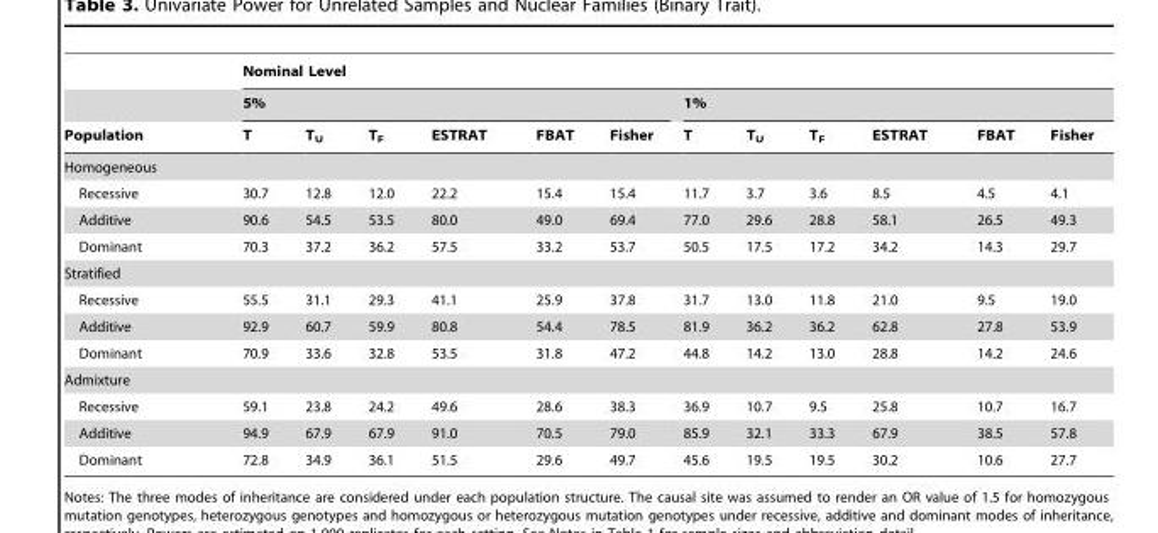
<table><thead><tr><td rowspan="3">Population</td><td colspan="12">Nominal Level</td></tr><tr><td colspan="6">5%</td><td colspan="6">1%</td></tr><tr><td>T</td><td>T<sub>U</sub></td><td>T<sub>F</sub></td><td>ESTRAT</td><td>FBAT</td><td>Fisher</td><td>T</td><td>T<sub>U</sub></td><td>T<sub>F</sub></td><td>ESTRAT</td><td>FBAT</td><td>Fisher</td></tr></thead><tbody><tr><td colspan="13">Homogeneous</td></tr><tr><td>Recessive</td><td>30.7</td><td>12.8</td><td>12.0</td><td>22.2</td><td>15.4</td><td>15.4</td><td>11.7</td><td>3.7</td><td>3.6</td><td>8.5</td><td>4.5</td><td>4.1</td></tr><tr><td>Additive</td><td>90.6</td><td>54.5</td><td>53.5</td><td>80.0</td><td>49.0</td><td>69.4</td><td>77.0</td><td>29.6</td><td>28.8</td><td>58.1</td><td>26.5</td><td>49.3</td></tr><tr><td>Dominant</td><td>70.3</td><td>37.2</td><td>36.2</td><td>57.5</td><td>33.2</td><td>53.7</td><td>50.5</td><td>17.5</td><td>17.2</td><td>34.2</td><td>14.3</td><td>29.7</td></tr><tr><td colspan="13">Stratified</td></tr><tr><td>Recessive</td><td>55.5</td><td>31.1</td><td>29.3</td><td>41.1</td><td>25.9</td><td>37.8</td><td>31.7</td><td>13.0</td><td>11.8</td><td>21.0</td><td>9.5</td><td>19.0</td></tr><tr><td>Additive</td><td>92.9</td><td>60.7</td><td>59.9</td><td>80.8</td><td>54.4</td><td>78.5</td><td>81.9</td><td>36.2</td><td>36.2</td><td>62.8</td><td>27.8</td><td>53.9</td></tr><tr><td>Dominant</td><td>70.9</td><td>33.6</td><td>32.8</td><td>53.5</td><td>31.8</td><td>47.2</td><td>44.8</td><td>14.2</td><td>13.0</td><td>28.8</td><td>14.2</td><td>24.6</td></tr><tr><td colspan="13">Admixture</td></tr><tr><td>Recessive</td><td>59.1</td><td>23.8</td><td>24.2</td><td>49.6</td><td>28.6</td><td>38.3</td><td>36.9</td><td>10.7</td><td>9.5</td><td>25.8</td><td>10.7</td><td>16.7</td></tr><tr><td>Additive</td><td>94.9</td><td>67.9</td><td>67.9</td><td>91.0</td><td>70.5</td><td>79.0</td><td>85.9</td><td>32.1</td><td>33.3</td><td>67.9</td><td>38.5</td><td>57.8</td></tr><tr><td>Dominant</td><td>72.8</td><td>34.9</td><td>36.1</td><td>51.5</td><td>29.6</td><td>49.7</td><td>45.6</td><td>19.5</td><td>19.5</td><td>30.2</td><td>10.6</td><td>27.7</td></tr></tbody></table>